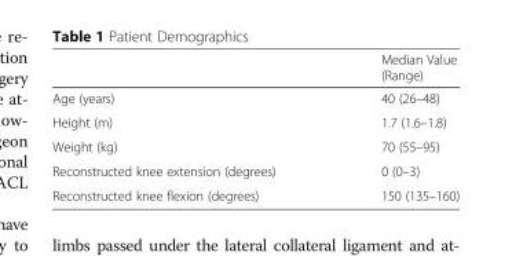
<table><thead><tr><td></td><td>Median Value (Range)</td></tr></thead><tbody><tr><td>Age (years)</td><td>40 (26–48)</td></tr><tr><td>Height (m)</td><td>1.7 (1.6–1.8)</td></tr><tr><td>Weight (kg)</td><td>70 (55–95)</td></tr><tr><td>Reconstructed knee extension (degrees)</td><td>0 (0–3)</td></tr><tr><td>Reconstructed knee flexion (degrees)</td><td>150 (135–160)</td></tr></tbody></table>